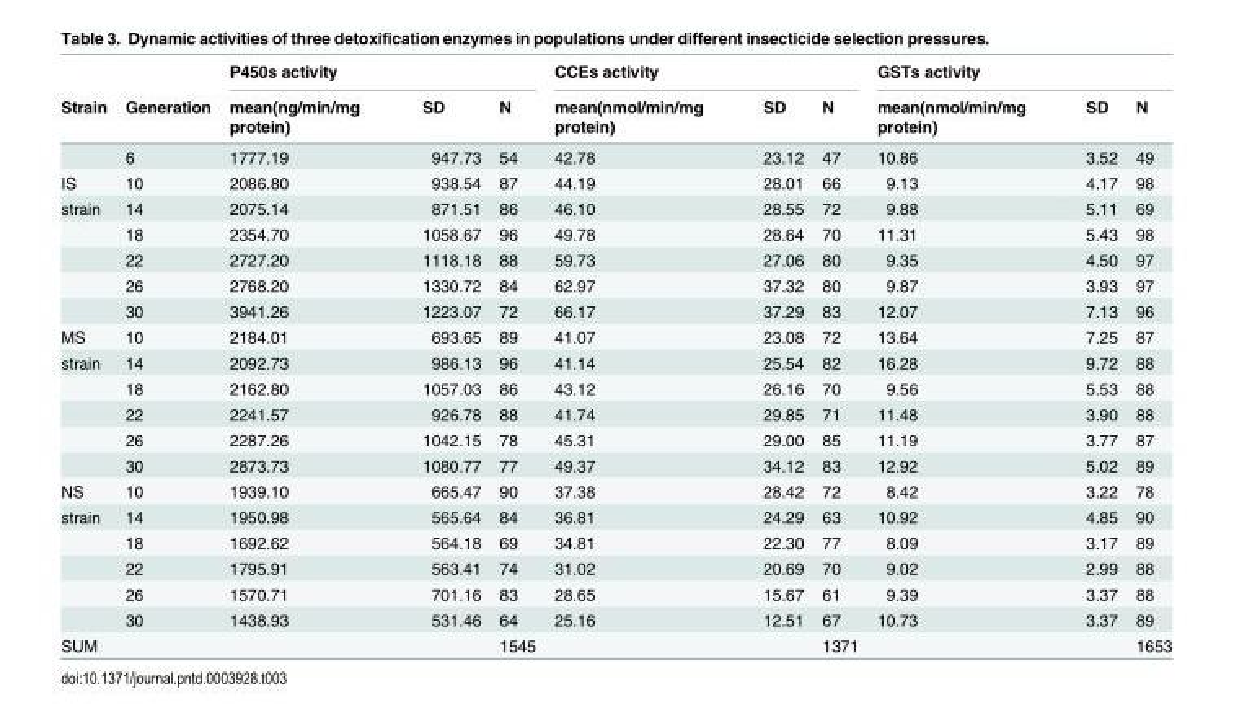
<table><thead><tr><td rowspan="2">Strain</td><td rowspan="2">Generation</td><td colspan="3">P450s activity</td><td colspan="3">CCEs activity</td><td colspan="3">GSTs activity</td></tr><tr><td>mean(ng/min/mg protein)</td><td>SD</td><td>N</td><td>mean(nmol/min/mg protein)</td><td>SD</td><td>N</td><td>mean(nmol/min/mg protein)</td><td>SD</td><td>N</td></tr></thead><tbody><tr><td></td><td>6</td><td>1777.19</td><td>947.73</td><td>54</td><td>42.78</td><td>23.12</td><td>47</td><td>10.86</td><td>3.52</td><td>49</td></tr><tr><td>IS</td><td>10</td><td>2086.80</td><td>938.54</td><td>87</td><td>44.19</td><td>28.01</td><td>66</td><td>9.13</td><td>4.17</td><td>98</td></tr><tr><td rowspan="5">strain</td><td>14</td><td>2075.14</td><td>871.51</td><td>86</td><td>46.10</td><td>28.55</td><td>72</td><td>9.88</td><td>5.11</td><td>69</td></tr><tr><td>18</td><td>2354.70</td><td>1058.67</td><td>96</td><td>49.78</td><td>28.64</td><td>70</td><td>11.31</td><td>5.43</td><td>98</td></tr><tr><td>22</td><td>2727.20</td><td>1118.18</td><td>88</td><td>59.73</td><td>27.06</td><td>80</td><td>9.35</td><td>4.50</td><td>97</td></tr><tr><td>26</td><td>2768.20</td><td>1330.72</td><td>84</td><td>62.97</td><td>37.32</td><td>80</td><td>9.87</td><td>3.93</td><td>97</td></tr><tr><td>30</td><td>3941.26</td><td>1223.07</td><td>72</td><td>66.17</td><td>37.29</td><td>83</td><td>12.07</td><td>7.13</td><td>96</td></tr><tr><td>MS</td><td>10</td><td>2184.01</td><td>693.65</td><td>89</td><td>41.07</td><td>23.08</td><td>72</td><td>13.64</td><td>7.25</td><td>87</td></tr><tr><td rowspan="5">strain</td><td>14</td><td>2092.73</td><td>986.13</td><td>96</td><td>41.14</td><td>25.54</td><td>82</td><td>16.28</td><td>9.72</td><td>88</td></tr><tr><td>18</td><td>2162.80</td><td>1057.03</td><td>86</td><td>43.12</td><td>26.16</td><td>70</td><td>9.56</td><td>5.53</td><td>88</td></tr><tr><td>22</td><td>2241.57</td><td>926.78</td><td>88</td><td>41.74</td><td>29.85</td><td>71</td><td>11.48</td><td>3.90</td><td>88</td></tr><tr><td>26</td><td>2287.26</td><td>1042.15</td><td>78</td><td>45.31</td><td>29.00</td><td>85</td><td>11.19</td><td>3.77</td><td>87</td></tr><tr><td>30</td><td>2873.73</td><td>1080.77</td><td>77</td><td>49.37</td><td>34.12</td><td>83</td><td>12.92</td><td>5.02</td><td>89</td></tr><tr><td>NS</td><td>10</td><td>1939.10</td><td>665.47</td><td>90</td><td>37.38</td><td>28.42</td><td>72</td><td>8.42</td><td>3.22</td><td>78</td></tr><tr><td rowspan="5">strain</td><td>14</td><td>1950.98</td><td>565.64</td><td>84</td><td>36.81</td><td>24.29</td><td>63</td><td>10.92</td><td>4.85</td><td>90</td></tr><tr><td>18</td><td>1692.62</td><td>564.18</td><td>69</td><td>34.81</td><td>22.30</td><td>77</td><td>8.09</td><td>3.17</td><td>89</td></tr><tr><td>22</td><td>1795.91</td><td>563.41</td><td>74</td><td>31.02</td><td>20.69</td><td>70</td><td>9.02</td><td>2.99</td><td>88</td></tr><tr><td>26</td><td>1570.71</td><td>701.16</td><td>83</td><td>28.65</td><td>15.67</td><td>61</td><td>9.39</td><td>3.37</td><td>88</td></tr><tr><td>30</td><td>1438.93</td><td>531.46</td><td>64</td><td>25.16</td><td>12.51</td><td>67</td><td>10.73</td><td>3.37</td><td>89</td></tr><tr><td>SUM</td><td></td><td></td><td></td><td>1545</td><td></td><td></td><td>1371</td><td></td><td></td><td>1653</td></tr></tbody></table>